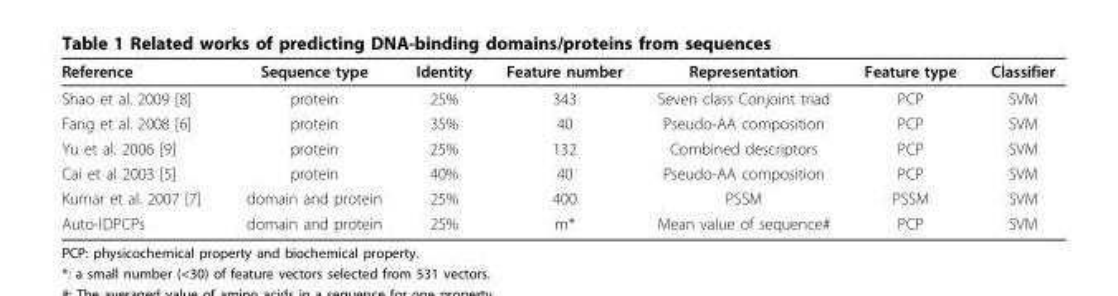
<table><thead><tr><td>Reference</td><td>Sequence type</td><td>Identity</td><td>Feature number</td><td>Representation</td><td>Feature type</td><td>Classifier</td></tr></thead><tbody><tr><td>Shao et al. 2009 [8]</td><td>protein</td><td>25%</td><td>343</td><td>Seven class Conjoint triad</td><td>PCP</td><td>SVM</td></tr><tr><td>Fang et al. 2008 [6]</td><td>protein</td><td>35%</td><td>40</td><td>Pseudo-AA composition</td><td>PCP</td><td>SVM</td></tr><tr><td>Yu et al. 2006 [9]</td><td>protein</td><td>25%</td><td>132</td><td>Combined descriptors</td><td>PCP</td><td>SVM</td></tr><tr><td>Cai et al 2003 [5]</td><td>protein</td><td>40%</td><td>40</td><td>Pseudo-AA composition</td><td>PCP</td><td>SVM</td></tr><tr><td>Kumar et al. 2007 [7]</td><td>domain and protein</td><td>25%</td><td>400</td><td>PSSM</td><td>PSSM</td><td>SVM</td></tr><tr><td>Auto-IDPCPs</td><td>domain and protein</td><td>25%</td><td>m*</td><td>Mean value of sequence#</td><td>PCP</td><td>SVM</td></tr></tbody></table>